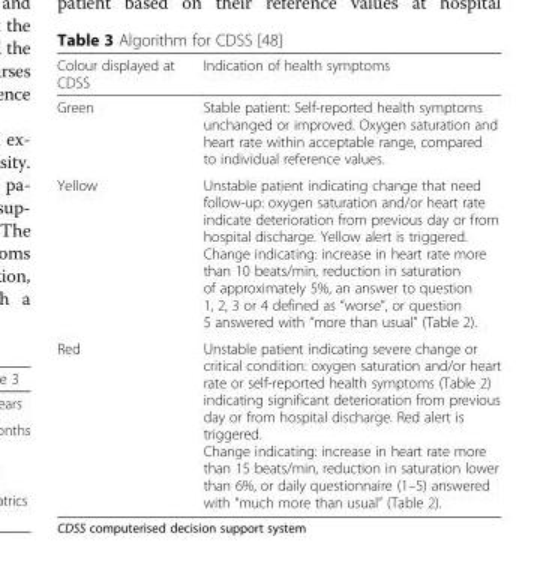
<table><thead><tr><td>Colour displayed at CDSS</td><td>Indication of health symptoms</td></tr></thead><tbody><tr><td>Green</td><td>Stable patient: Self-reported health symptoms unchanged or improved. Oxygen saturation and heart rate within acceptable range, compared to individual reference values.</td></tr><tr><td>Yellow</td><td>Unstable patient indicating change that need follow-up: oxygen saturation and/or heart rate indicate deterioration from previous day or from hospital discharge. Yellow alert is triggered. Change indicating: increase in heart rate more than 10 beats/min, reduction in saturation of approximately 5%, an answer to question 1, 2, 3 or 4 defined as “worse”, or question 5 answered with “more than usual” (Table 2).</td></tr><tr><td>Red</td><td>Unstable patient indicating severe change or critical condition: oxygen saturation and/or heart rate or self-reported health symptoms (Table 2) indicating significant deterioration from previous day or from hospital discharge. Red alert is triggered. Change indicating: increase in heart rate more than 15 beats/min, reduction in saturation lower than 6%, or daily questionnaire (1–5) answered with “much more than usual” (Table 2).</td></tr></tbody></table>